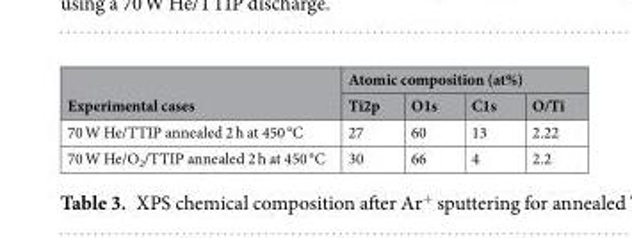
<table><thead><tr><td rowspan="2">Experimental cases</td><td colspan="4">Atomic composition (at%)</td></tr><tr><td>Ti2p</td><td>O1s</td><td>C1s</td><td>O/Ti</td></tr></thead><tbody><tr><td>70 W He/TTIP annealed 2 h at 450 °C</td><td>27</td><td>60</td><td>13</td><td>2.22</td></tr><tr><td>70 W He/O<sub>2</sub>/TTIP annealed 2 h at 450 °C</td><td>30</td><td>66</td><td>4</td><td>2.2</td></tr></tbody></table>